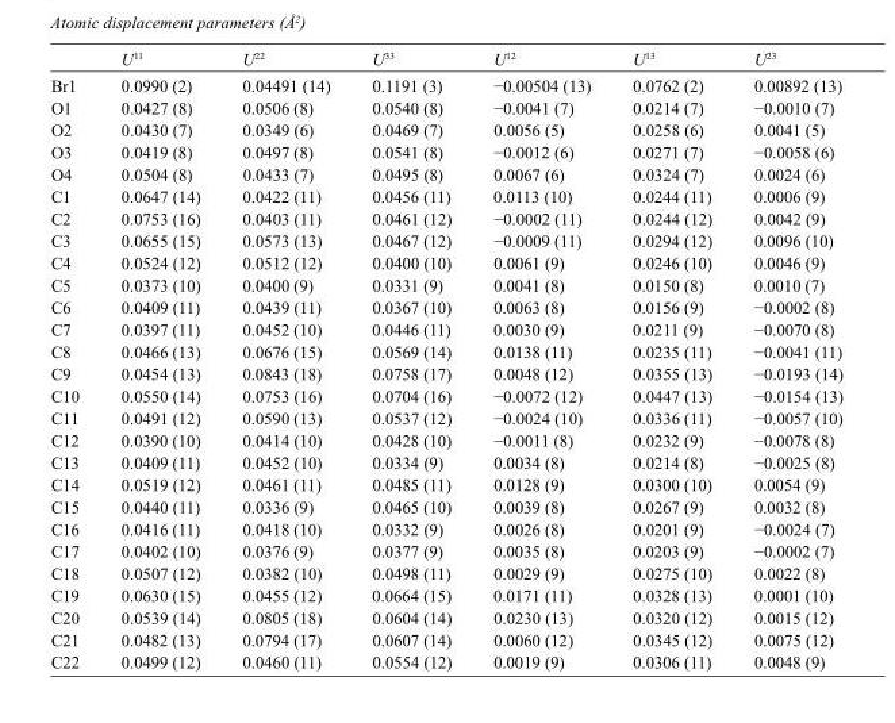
<table><thead><tr><td></td><td>U<sup>11</sup></td><td>U<sup>22</sup></td><td>U<sup>33</sup></td><td>U<sup>12</sup></td><td>U<sup>13</sup></td><td>U<sup>23</sup></td></tr></thead><tbody><tr><td>Br1</td><td>0.0990 (2)</td><td>0.04491 (14)</td><td>0.1191 (3)</td><td>−0.00504 (13)</td><td>0.0762 (2)</td><td>0.00892 (13)</td></tr><tr><td>O1</td><td>0.0427 (8)</td><td>0.0506 (8)</td><td>0.0540 (8)</td><td>−0.0041 (7)</td><td>0.0214 (7)</td><td>−0.0010 (7)</td></tr><tr><td>O2</td><td>0.0430 (7)</td><td>0.0349 (6)</td><td>0.0469 (7)</td><td>0.0056 (5)</td><td>0.0258 (6)</td><td>0.0041 (5)</td></tr><tr><td>O3</td><td>0.0419 (8)</td><td>0.0497 (8)</td><td>0.0541 (8)</td><td>−0.0012 (6)</td><td>0.0271 (7)</td><td>−0.0058 (6)</td></tr><tr><td>O4</td><td>0.0504 (8)</td><td>0.0433 (7)</td><td>0.0495 (8)</td><td>0.0067 (6)</td><td>0.0324 (7)</td><td>0.0024 (6)</td></tr><tr><td>C1</td><td>0.0647 (14)</td><td>0.0422 (11)</td><td>0.0456 (11)</td><td>0.0113 (10)</td><td>0.0244 (11)</td><td>0.0006 (9)</td></tr><tr><td>C2</td><td>0.0753 (16)</td><td>0.0403 (11)</td><td>0.0461 (12)</td><td>−0.0002 (11)</td><td>0.0244 (12)</td><td>0.0042 (9)</td></tr><tr><td>C3</td><td>0.0655 (15)</td><td>0.0573 (13)</td><td>0.0467 (12)</td><td>−0.0009 (11)</td><td>0.0294 (12)</td><td>0.0096 (10)</td></tr><tr><td>C4</td><td>0.0524 (12)</td><td>0.0512 (12)</td><td>0.0400 (10)</td><td>0.0061 (9)</td><td>0.0246 (10)</td><td>0.0046 (9)</td></tr><tr><td>C5</td><td>0.0373 (10)</td><td>0.0400 (9)</td><td>0.0331 (9)</td><td>0.0041 (8)</td><td>0.0150 (8)</td><td>0.0010 (7)</td></tr><tr><td>C6</td><td>0.0409 (11)</td><td>0.0439 (11)</td><td>0.0367 (10)</td><td>0.0063 (8)</td><td>0.0156 (9)</td><td>−0.0002 (8)</td></tr><tr><td>C7</td><td>0.0397 (11)</td><td>0.0452 (10)</td><td>0.0446 (11)</td><td>0.0030 (9)</td><td>0.0211 (9)</td><td>−0.0070 (8)</td></tr><tr><td>C8</td><td>0.0466 (13)</td><td>0.0676 (15)</td><td>0.0569 (14)</td><td>0.0138 (11)</td><td>0.0235 (11)</td><td>−0.0041 (11)</td></tr><tr><td>C9</td><td>0.0454 (13)</td><td>0.0843 (18)</td><td>0.0758 (17)</td><td>0.0048 (12)</td><td>0.0355 (13)</td><td>−0.0193 (14)</td></tr><tr><td>C10</td><td>0.0550 (14)</td><td>0.0753 (16)</td><td>0.0704 (16)</td><td>−0.0072 (12)</td><td>0.0447 (13)</td><td>−0.0154 (13)</td></tr><tr><td>C11</td><td>0.0491 (12)</td><td>0.0590 (13)</td><td>0.0537 (12)</td><td>−0.0024 (10)</td><td>0.0336 (11)</td><td>−0.0057 (10)</td></tr><tr><td>C12</td><td>0.0390 (10)</td><td>0.0414 (10)</td><td>0.0428 (10)</td><td>−0.0011 (8)</td><td>0.0232 (9)</td><td>−0.0078 (8)</td></tr><tr><td>C13</td><td>0.0409 (11)</td><td>0.0452 (10)</td><td>0.0334 (9)</td><td>0.0034 (8)</td><td>0.0214 (8)</td><td>−0.0025 (8)</td></tr><tr><td>C14</td><td>0.0519 (12)</td><td>0.0461 (11)</td><td>0.0485 (11)</td><td>0.0128 (9)</td><td>0.0300 (10)</td><td>0.0054 (9)</td></tr><tr><td>C15</td><td>0.0440 (11)</td><td>0.0336 (9)</td><td>0.0465 (10)</td><td>0.0039 (8)</td><td>0.0267 (9)</td><td>0.0032 (8)</td></tr><tr><td>C16</td><td>0.0416 (11)</td><td>0.0418 (10)</td><td>0.0332 (9)</td><td>0.0026 (8)</td><td>0.0201 (9)</td><td>−0.0024 (7)</td></tr><tr><td>C17</td><td>0.0402 (10)</td><td>0.0376 (9)</td><td>0.0377 (9)</td><td>0.0035 (8)</td><td>0.0203 (9)</td><td>−0.0002 (7)</td></tr><tr><td>C18</td><td>0.0507 (12)</td><td>0.0382 (10)</td><td>0.0498 (11)</td><td>0.0029 (9)</td><td>0.0275 (10)</td><td>0.0022 (8)</td></tr><tr><td>C19</td><td>0.0630 (15)</td><td>0.0455 (12)</td><td>0.0664 (15)</td><td>0.0171 (11)</td><td>0.0328 (13)</td><td>0.0001 (10)</td></tr><tr><td>C20</td><td>0.0539 (14)</td><td>0.0805 (18)</td><td>0.0604 (14)</td><td>0.0230 (13)</td><td>0.0320 (12)</td><td>0.0015 (12)</td></tr><tr><td>C21</td><td>0.0482 (13)</td><td>0.0794 (17)</td><td>0.0607 (14)</td><td>0.0060 (12)</td><td>0.0345 (12)</td><td>0.0075 (12)</td></tr><tr><td>C22</td><td>0.0499 (12)</td><td>0.0460 (11)</td><td>0.0554 (12)</td><td>0.0019 (9)</td><td>0.0306 (11)</td><td>0.0048 (9)</td></tr></tbody></table>